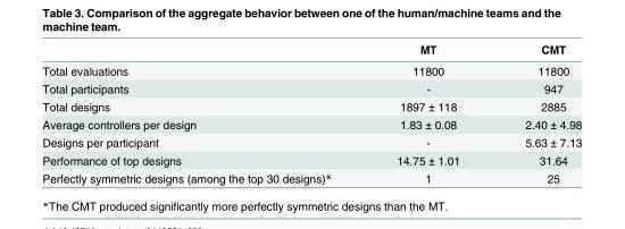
<table><thead><tr><td></td><td>MT</td><td>CMT</td></tr></thead><tbody><tr><td>Total evaluations</td><td>11800</td><td>11800</td></tr><tr><td>Total participants</td><td>-</td><td>947</td></tr><tr><td>Total designs</td><td>1897 ± 118</td><td>2885</td></tr><tr><td>Average controllers per design</td><td>1.83 ± 0.08</td><td>2.40 ± 4.98</td></tr><tr><td>Designs per participant</td><td>-</td><td>5.63 ± 7.13</td></tr><tr><td>Performance of top designs</td><td>14.75 ± 1.01</td><td>31.64</td></tr><tr><td>Perfectly symmetric designs (among the top 30 designs)*</td><td>1</td><td>25</td></tr></tbody></table>